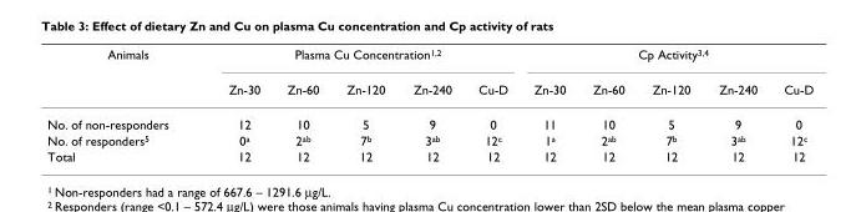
<table><thead><tr><td rowspan="2">Animals</td><td colspan="5">Plasma Cu Concentration<sup>1,2</sup></td><td colspan="5">Cp Activity<sup>3,4</sup></td></tr><tr><td>Zn-30</td><td>Zn-60</td><td>Zn-120</td><td>Zn-240</td><td>Cu-D</td><td>Zn-30</td><td>Zn-60</td><td>Zn-120</td><td>Zn-240</td><td>Cu-D</td></tr></thead><tbody><tr><td>No. of non-responders</td><td>12</td><td>10</td><td>5</td><td>9</td><td>0</td><td>11</td><td>10</td><td>5</td><td>9</td><td>0</td></tr><tr><td>No. of responders<sup>5</sup></td><td>0<sup>a</sup></td><td>2<sup>ab</sup></td><td>7<sup>b</sup></td><td>3<sup>ab</sup></td><td>12<sup>c</sup></td><td>1<sup>a</sup></td><td>2<sup>ab</sup></td><td>7<sup>b</sup></td><td>3<sup>ab</sup></td><td>12<sup>c</sup></td></tr><tr><td>Total</td><td>12</td><td>12</td><td>12</td><td>12</td><td>12</td><td>12</td><td>12</td><td>12</td><td>12</td><td>12</td></tr></tbody></table>